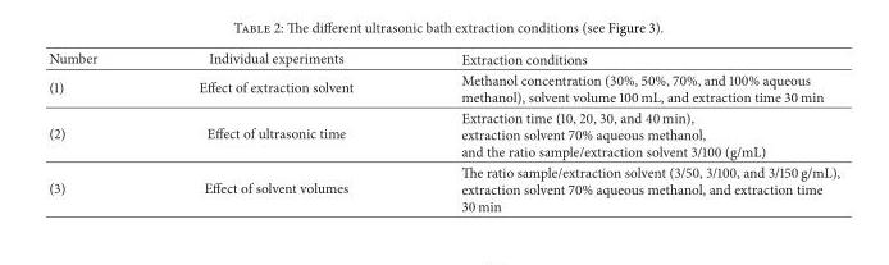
<table><thead><tr><td>Number</td><td>Individual experiments</td><td>Extraction conditions</td></tr></thead><tbody><tr><td>(1)</td><td>Effect of extraction solvent</td><td>Methanol concentration (30%, 50%, 70%, and 100% aqueous methanol), solvent volume 100 mL, and extraction time 30 min</td></tr><tr><td>(2)</td><td>Effect of ultrasonic time</td><td>Extraction time (10, 20, 30, and 40 min), extraction solvent 70% aqueous methanol, and the ratio sample/extraction solvent 3/100 (g/mL)</td></tr><tr><td>(3)</td><td>Effect of solvent volumes</td><td>The ratio sample/extraction solvent (3/50, 3/100, and 3/150 g/mL), extraction solvent 70% aqueous methanol, and extraction time 30 min</td></tr></tbody></table>